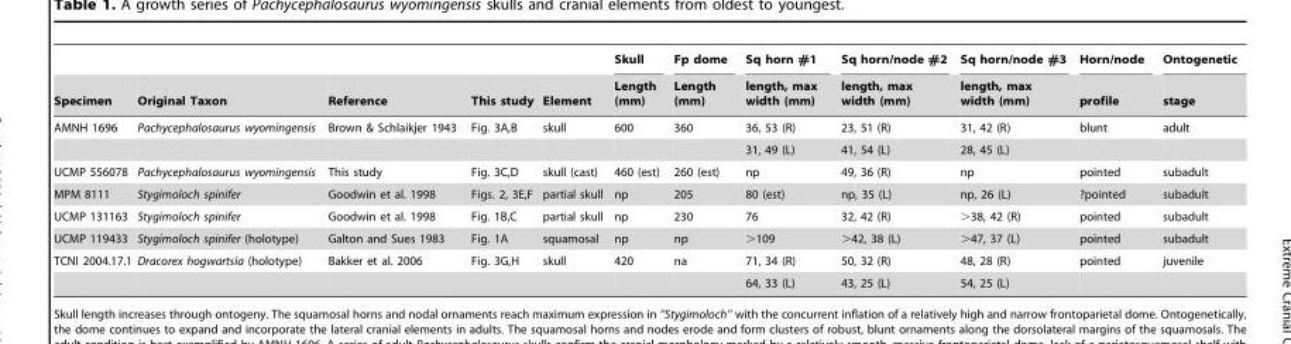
<table><thead><tr><td rowspan="2">Specimen</td><td rowspan="2">Original Taxon</td><td rowspan="2">Reference</td><td rowspan="2">This study</td><td rowspan="2">Element</td><td rowspan="2">Skull Length (mm)</td><td rowspan="2">Fp dome Length (mm)</td><td rowspan="2">Sq horn #1 length, max width (mm)</td><td rowspan="2">Sq horn/node #2 length, max width (mm)</td><td rowspan="2">Sq horn/node #3 length, max width (mm)</td><td rowspan="2">Horn/node profile</td><td rowspan="2">Ontogenetic stage</td></tr><tr></tr></thead><tbody><tr><td rowspan="2">AMNH 1696</td><td>Pachycephalosaurus wyomingensis</td><td>Brown &amp; Schlaikjer 1943</td><td>Fig. 3A,B</td><td>skull</td><td>600</td><td>360</td><td>36, 53 (R)</td><td>23, 51 (R)</td><td>31, 42 (R)</td><td>blunt</td><td>adult</td></tr><tr><td></td><td></td><td></td><td></td><td></td><td></td><td>31, 49 (L)</td><td>41, 54 (L)</td><td>28, 45 (L)</td><td></td><td></td></tr><tr><td>UCMP 556078</td><td>Pachycephalosaurus wyomingensis</td><td>This study</td><td>Fig. 3C,D</td><td>skull (cast)</td><td>460 (est)</td><td>260 (est)</td><td>np</td><td>49, 36 (R)</td><td>np</td><td>pointed</td><td>subadult</td></tr><tr><td>MPM 8111</td><td>Stygimoloch spinifer</td><td>Goodwin et al. 1998</td><td>Figs. 2, 3E,F</td><td>partial skull</td><td>np</td><td>205</td><td>80 (est)</td><td>np, 35 (L)</td><td>np, 26 (L)</td><td>?pointed</td><td>subadult</td></tr><tr><td>UCMP 131163</td><td>Stygimoloch spinifer</td><td>Goodwin et al. 1998</td><td>Fig. 1B,C</td><td>partial skull</td><td>np</td><td>230</td><td>76</td><td>32, 42 (R)</td><td>&gt;38, 42 (R)</td><td>pointed</td><td>subadult</td></tr><tr><td>UCMP 119433</td><td>Stygimoloch spinifer (holotype)</td><td>Galton and Sues 1983</td><td>Fig. 1A</td><td>squamosal</td><td>np</td><td>np</td><td>&gt;109</td><td>&gt;42, 38 (L)</td><td>&gt;47, 37 (L)</td><td>pointed</td><td>subadult</td></tr><tr><td rowspan="2">TCNI 2004.17.1</td><td>Dracorex hogwartsia (holotype)</td><td>Bakker et al. 2006</td><td>Fig. 3G,H</td><td>skull</td><td>420</td><td>na</td><td>71, 34 (R)</td><td>50, 32 (R)</td><td>48, 28 (R)</td><td>pointed</td><td>juvenile</td></tr><tr><td></td><td></td><td></td><td></td><td></td><td></td><td>64, 33 (L)</td><td>43, 25 (L)</td><td>54, 25 (L)</td><td></td><td></td></tr></tbody></table>